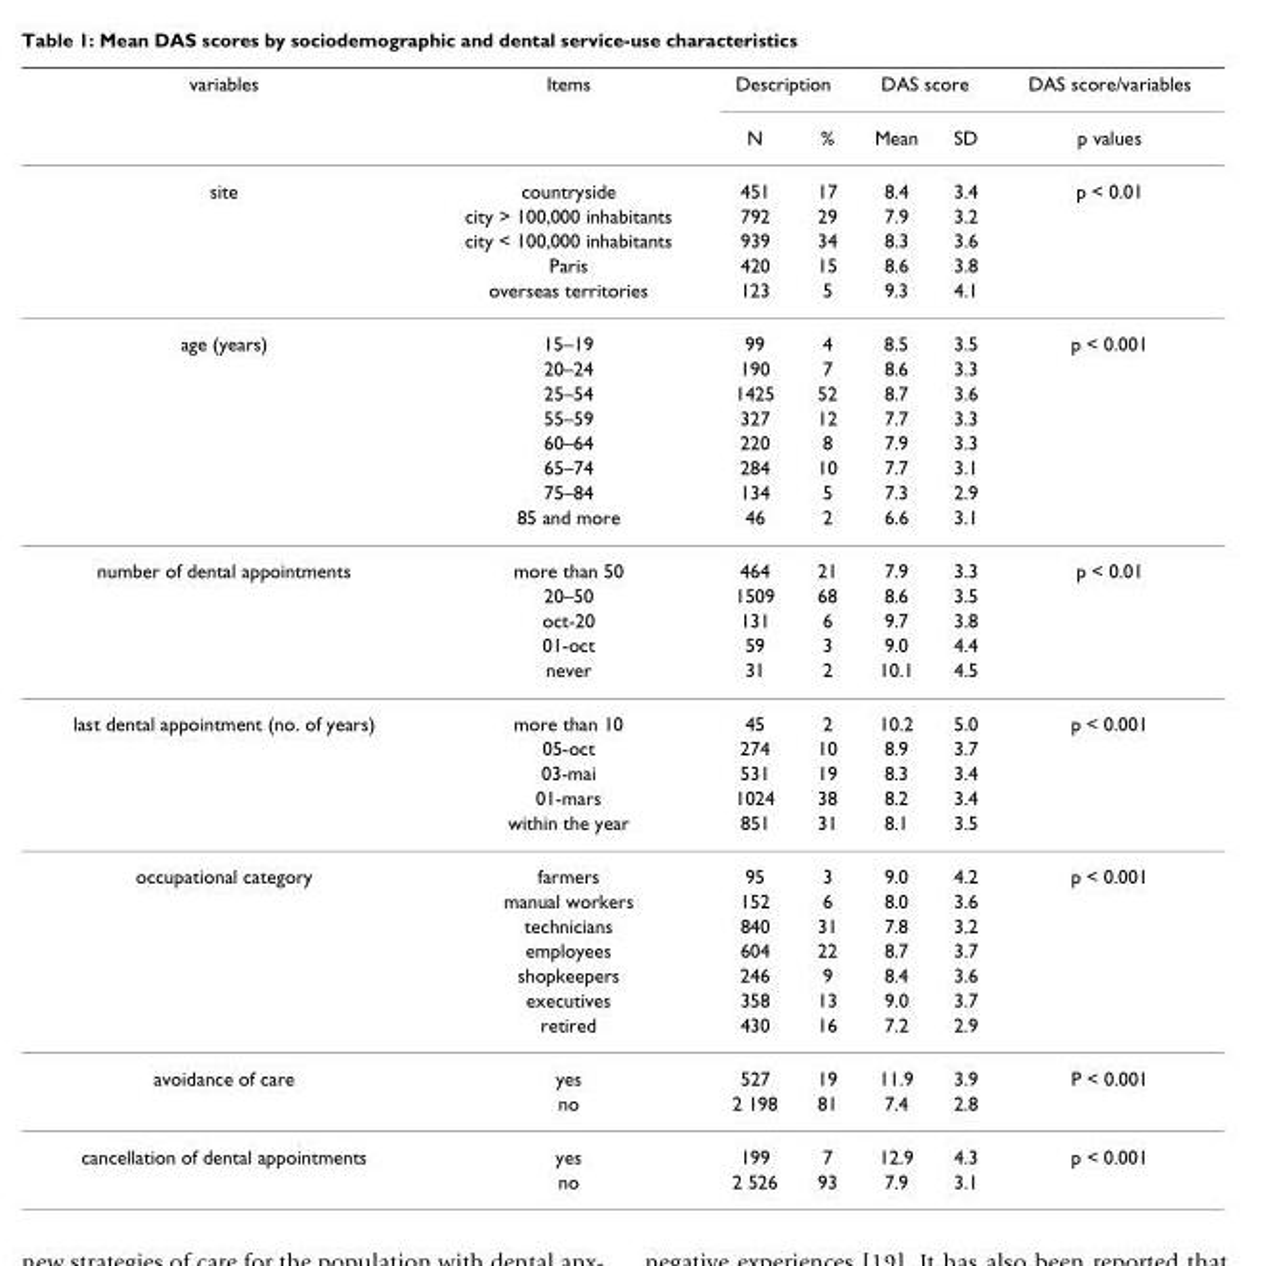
<table><thead><tr><td rowspan="2">variables</td><td rowspan="2">Items</td><td colspan="2">Description</td><td colspan="2">DAS score</td><td rowspan="2">DAS score/variables p values</td></tr><tr><td>N</td><td>%</td><td>Mean</td><td>SD</td></tr></thead><tbody><tr><td rowspan="5">site</td><td>countryside</td><td>451</td><td>17</td><td>8.4</td><td>3.4</td><td>p &lt; 0.01</td></tr><tr><td>city &gt; 100,000 inhabitants</td><td>792</td><td>29</td><td>7.9</td><td>3.2</td><td></td></tr><tr><td>city &lt; 100,000 inhabitants</td><td>939</td><td>34</td><td>8.3</td><td>3.6</td><td></td></tr><tr><td>Paris</td><td>420</td><td>15</td><td>8.6</td><td>3.8</td><td></td></tr><tr><td>overseas territories</td><td>123</td><td>5</td><td>9.3</td><td>4.1</td><td></td></tr><tr><td rowspan="8">age (years)</td><td>15–19</td><td>99</td><td>4</td><td>8.5</td><td>3.5</td><td>p &lt; 0.001</td></tr><tr><td>20–24</td><td>190</td><td>7</td><td>8.6</td><td>3.3</td><td></td></tr><tr><td>25–54</td><td>1425</td><td>52</td><td>8.7</td><td>3.6</td><td></td></tr><tr><td>55–59</td><td>327</td><td>12</td><td>7.7</td><td>3.3</td><td></td></tr><tr><td>60–64</td><td>220</td><td>8</td><td>7.9</td><td>3.3</td><td></td></tr><tr><td>65–74</td><td>284</td><td>10</td><td>7.7</td><td>3.1</td><td></td></tr><tr><td>75–84</td><td>134</td><td>5</td><td>7.3</td><td>2.9</td><td></td></tr><tr><td>85 and more</td><td>46</td><td>2</td><td>6.6</td><td>3.1</td><td></td></tr><tr><td rowspan="5">number of dental appointments</td><td>more than 50</td><td>464</td><td>21</td><td>7.9</td><td>3.3</td><td>p &lt; 0.01</td></tr><tr><td>20–50</td><td>1509</td><td>68</td><td>8.6</td><td>3.5</td><td></td></tr><tr><td>oct-20</td><td>131</td><td>6</td><td>9.7</td><td>3.8</td><td></td></tr><tr><td>01-oct</td><td>59</td><td>3</td><td>9.0</td><td>4.4</td><td></td></tr><tr><td>never</td><td>31</td><td>2</td><td>10.1</td><td>4.5</td><td></td></tr><tr><td rowspan="5">last dental appointment (no. of years)</td><td>more than 10</td><td>45</td><td>2</td><td>10.2</td><td>5.0</td><td>p &lt; 0.001</td></tr><tr><td>05-oct</td><td>274</td><td>10</td><td>8.9</td><td>3.7</td><td></td></tr><tr><td>03-mai</td><td>531</td><td>19</td><td>8.3</td><td>3.4</td><td></td></tr><tr><td>01-mars</td><td>1024</td><td>38</td><td>8.2</td><td>3.4</td><td></td></tr><tr><td>within the year</td><td>851</td><td>31</td><td>8.1</td><td>3.5</td><td></td></tr><tr><td rowspan="7">occupational category</td><td>farmers</td><td>95</td><td>3</td><td>9.0</td><td>4.2</td><td>p &lt; 0.001</td></tr><tr><td>manual workers</td><td>152</td><td>6</td><td>8.0</td><td>3.6</td><td></td></tr><tr><td>technicians</td><td>840</td><td>31</td><td>7.8</td><td>3.2</td><td></td></tr><tr><td>employees</td><td>604</td><td>22</td><td>8.7</td><td>3.7</td><td></td></tr><tr><td>shopkeepers</td><td>246</td><td>9</td><td>8.4</td><td>3.6</td><td></td></tr><tr><td>executives</td><td>358</td><td>13</td><td>9.0</td><td>3.7</td><td></td></tr><tr><td>retired</td><td>430</td><td>16</td><td>7.2</td><td>2.9</td><td></td></tr><tr><td rowspan="2">avoidance of care</td><td>yes</td><td>527</td><td>19</td><td>11.9</td><td>3.9</td><td>P &lt; 0.001</td></tr><tr><td>no</td><td>2 198</td><td>81</td><td>7.4</td><td>2.8</td><td></td></tr><tr><td rowspan="2">cancellation of dental appointments</td><td>yes</td><td>199</td><td>7</td><td>12.9</td><td>4.3</td><td>p &lt; 0.001</td></tr><tr><td>no</td><td>2 526</td><td>93</td><td>7.9</td><td>3.1</td><td></td></tr></tbody></table>